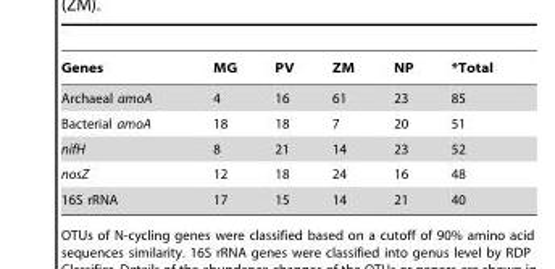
<table><thead><tr><td>Genes</td><td>MG</td><td>PV</td><td>ZM</td><td>NP</td><td>*Total</td></tr></thead><tbody><tr><td>Archaeal amoA</td><td>4</td><td>16</td><td>61</td><td>23</td><td>85</td></tr><tr><td>Bacterial amoA</td><td>18</td><td>18</td><td>7</td><td>20</td><td>51</td></tr><tr><td>nifH</td><td>8</td><td>21</td><td>14</td><td>23</td><td>52</td></tr><tr><td>nosZ</td><td>12</td><td>18</td><td>24</td><td>16</td><td>48</td></tr><tr><td>16S rRNA</td><td>17</td><td>15</td><td>14</td><td>21</td><td>40</td></tr></tbody></table>